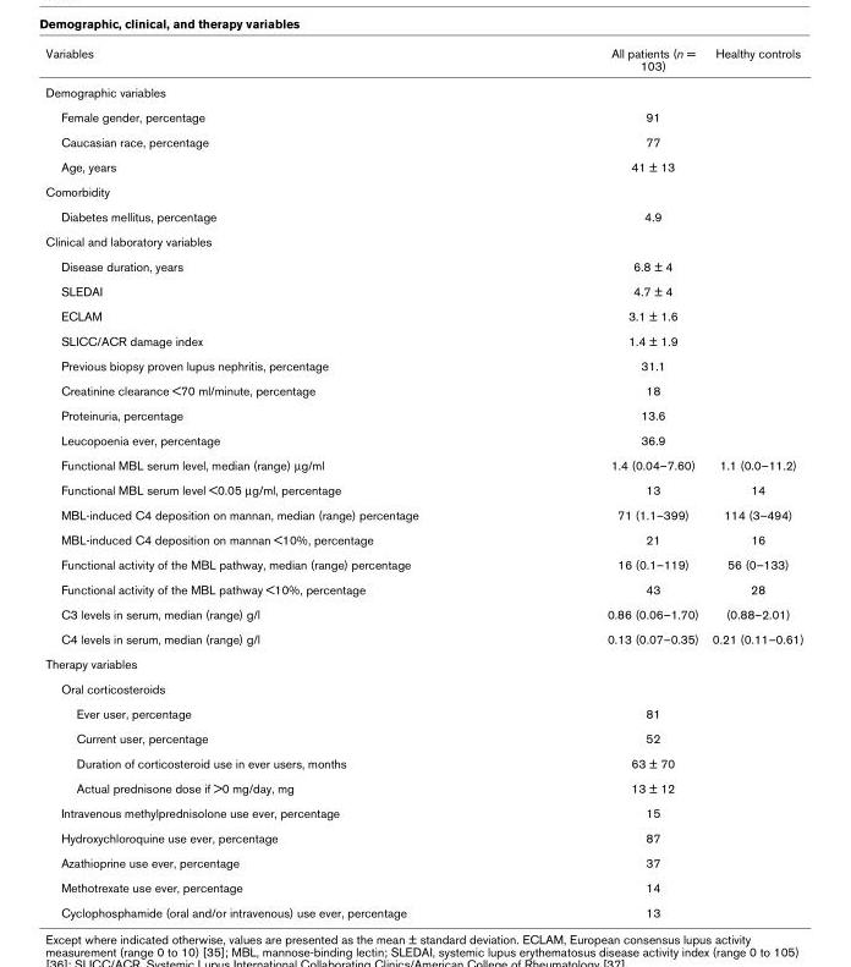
<table><thead><tr><td>Variables</td><td>All patients (n = 103)</td><td>Healthy controls</td></tr></thead><tbody><tr><td colspan="3">Demographic variables</td></tr><tr><td>Female gender, percentage</td><td>91</td><td></td></tr><tr><td>Caucasian race, percentage</td><td>77</td><td></td></tr><tr><td>Age, years</td><td>41 ± 13</td><td></td></tr><tr><td colspan="3">Comorbidity</td></tr><tr><td>Diabetes mellitus, percentage</td><td>4.9</td><td></td></tr><tr><td colspan="3">Clinical and laboratory variables</td></tr><tr><td>Disease duration, years</td><td>6.8 ± 4</td><td></td></tr><tr><td>SLEDAI</td><td>4.7 ± 4</td><td></td></tr><tr><td>ECLAM</td><td>3.1 ± 1.6</td><td></td></tr><tr><td>SLICC/ACR damage index</td><td>1.4 ± 1.9</td><td></td></tr><tr><td>Previous biopsy proven lupus nephritis, percentage</td><td>31.1</td><td></td></tr><tr><td>Creatinine clearance &lt;70 ml/minute, percentage</td><td>18</td><td></td></tr><tr><td>Proteinuria, percentage</td><td>13.6</td><td></td></tr><tr><td>Leucopoenia ever, percentage</td><td>36.9</td><td></td></tr><tr><td>Functional MBL serum level, median (range) μg/ml</td><td>1.4 (0.04–7.60)</td><td>1.1 (0.0–11.2)</td></tr><tr><td>Functional MBL serum level &lt;0.05 μg/ml, percentage</td><td>13</td><td>14</td></tr><tr><td>MBL-induced C4 deposition on mannan, median (range) percentage</td><td>71 (1.1–399)</td><td>114 (3–494)</td></tr><tr><td>MBL-induced C4 deposition on mannan &lt;10%, percentage</td><td>21</td><td>16</td></tr><tr><td>Functional activity of the MBL pathway, median (range) percentage</td><td>16 (0.1–119)</td><td>56 (0–133)</td></tr><tr><td>Functional activity of the MBL pathway &lt;10%, percentage</td><td>43</td><td>28</td></tr><tr><td>C3 levels in serum, median (range) g/l</td><td>0.86 (0.06–1.70)</td><td>(0.88–2.01)</td></tr><tr><td>C4 levels in serum, median (range) g/l</td><td>0.13 (0.07–0.35)</td><td>0.21 (0.11–0.61)</td></tr><tr><td colspan="3">Therapy variables</td></tr><tr><td colspan="3">Oral corticosteroids</td></tr><tr><td>Ever user, percentage</td><td>81</td><td></td></tr><tr><td>Current user, percentage</td><td>52</td><td></td></tr><tr><td>Duration of corticosteroid use in ever users, months</td><td>63 ± 70</td><td></td></tr><tr><td>Actual prednisone dose if &gt;0 mg/day, mg</td><td>13 ± 12</td><td></td></tr><tr><td>Intravenous methylprednisolone use ever, percentage</td><td>15</td><td></td></tr><tr><td>Hydroxychloroquine use ever, percentage</td><td>87</td><td></td></tr><tr><td>Azathioprine use ever, percentage</td><td>37</td><td></td></tr><tr><td>Methotrexate use ever, percentage</td><td>14</td><td></td></tr><tr><td>Cyclophosphamide (oral and/or intravenous) use ever, percentage</td><td>13</td><td></td></tr></tbody></table>